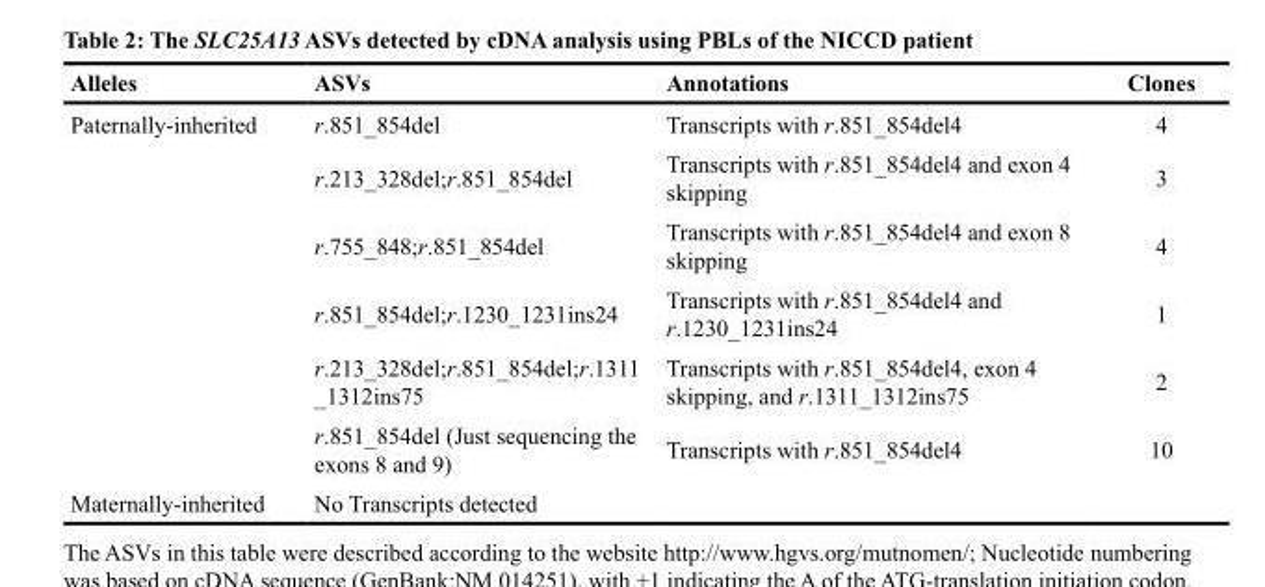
<table><thead><tr><td>Alleles</td><td>ASVs</td><td>Annotations</td><td>Clones</td></tr></thead><tbody><tr><td rowspan="6">Paternally-inherited</td><td>r.851_854del</td><td>Transcripts with r.851_854del4</td><td>4</td></tr><tr><td>r.213_328del;r.851_854del</td><td>Transcripts with r.851_854del4 and exon 4 skipping</td><td>3</td></tr><tr><td>r.755_848;r.851_854del</td><td>Transcripts with r.851_854del4 and exon 8 skipping</td><td>4</td></tr><tr><td>r.851_854del;r.1230_1231ins24</td><td>Transcripts with r.851_854del4 and r.1230_1231ins24</td><td>1</td></tr><tr><td>r.213_328del;r.851_854del;r.1311 _1312ins75</td><td>Transcripts with r.851_854del4, exon 4 skipping, and r.1311_1312ins75</td><td>2</td></tr><tr><td>r.851_854del (Just sequencing the exons 8 and 9)</td><td>Transcripts with r.851_854del4</td><td>10</td></tr><tr><td>Maternally-inherited</td><td>No Transcripts detected</td><td></td><td></td></tr></tbody></table>